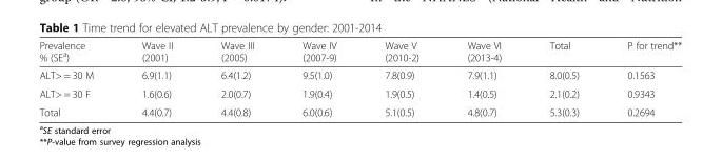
<table><thead><tr><td>Prevalence % (SE<sup>a</sup>)</td><td>Wave II (2001)</td><td>Wave III (2005)</td><td>Wave IV (2007-9)</td><td>Wave V (2010-2)</td><td>Wave VI (2013-4)</td><td>Total</td><td>P for trend**</td></tr></thead><tbody><tr><td>ALT&gt; = 30 M</td><td>6.9(1.1)</td><td>6.4(1.2)</td><td>9.5(1.0)</td><td>7.8(0.9)</td><td>7.9(1.1)</td><td>8.0(0.5)</td><td>0.1563</td></tr><tr><td>ALT&gt; = 30 F</td><td>1.6(0.6)</td><td>2.0(0.7)</td><td>1.9(0.4)</td><td>1.9(0.5)</td><td>1.4(0.5)</td><td>2.1(0.2)</td><td>0.9343</td></tr><tr><td>Total</td><td>4.4(0.7)</td><td>4.4(0.8)</td><td>6.0(0.6)</td><td>5.1(0.5)</td><td>4.8(0.7)</td><td>5.3(0.3)</td><td>0.2694</td></tr></tbody></table>